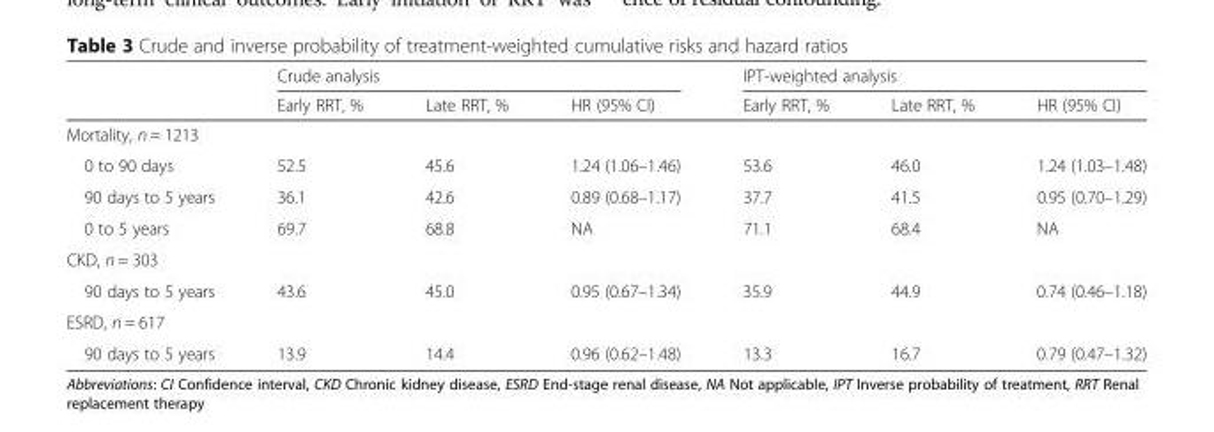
<table><thead><tr><td rowspan="2"></td><td colspan="3">Crude analysis</td><td colspan="3">IPT-weighted analysis</td></tr><tr><td>Early RRT, %</td><td>Late RRT, %</td><td>HR (95% CI)</td><td>Early RRT, %</td><td>Late RRT, %</td><td>HR (95% CI)</td></tr></thead><tbody><tr><td colspan="7">Mortality, n = 1213</td></tr><tr><td>0 to 90 days</td><td>52.5</td><td>45.6</td><td>1.24 (1.06–1.46)</td><td>53.6</td><td>46.0</td><td>1.24 (1.03–1.48)</td></tr><tr><td>90 days to 5 years</td><td>36.1</td><td>42.6</td><td>0.89 (0.68–1.17)</td><td>37.7</td><td>41.5</td><td>0.95 (0.70–1.29)</td></tr><tr><td>0 to 5 years</td><td>69.7</td><td>68.8</td><td>NA</td><td>71.1</td><td>68.4</td><td>NA</td></tr><tr><td colspan="7">CKD, n = 303</td></tr><tr><td>90 days to 5 years</td><td>43.6</td><td>45.0</td><td>0.95 (0.67–1.34)</td><td>35.9</td><td>44.9</td><td>0.74 (0.46–1.18)</td></tr><tr><td colspan="7">ESRD, n = 617</td></tr><tr><td>90 days to 5 years</td><td>13.9</td><td>14.4</td><td>0.96 (0.62–1.48)</td><td>13.3</td><td>16.7</td><td>0.79 (0.47–1.32)</td></tr></tbody></table>